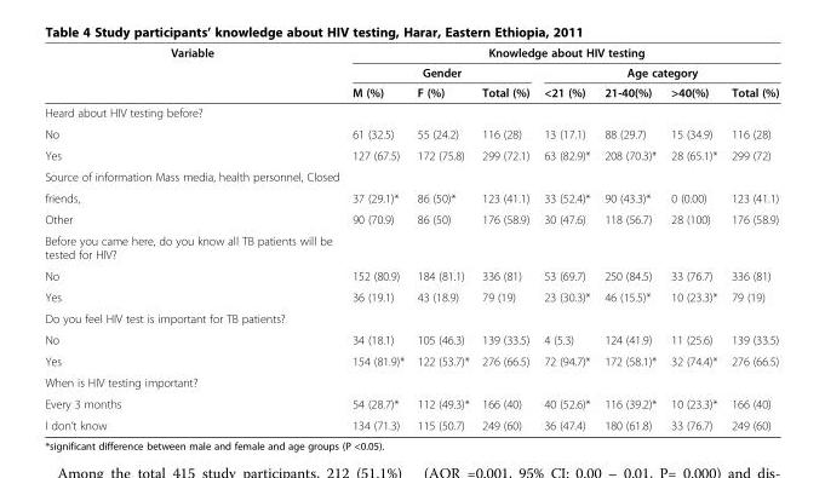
<table><thead><tr><td rowspan="3">Variable</td><td colspan="7">Knowledge about HIV testing</td></tr><tr><td colspan="3">Gender</td><td colspan="4">Age category</td></tr><tr><td>M (%)</td><td>F (%)</td><td>Total (%)</td><td>&lt;21 (%)</td><td>21-40(%)</td><td>&gt;40(%)</td><td>Total (%)</td></tr></thead><tbody><tr><td colspan="8">Heard about HIV testing before?</td></tr><tr><td>No</td><td>61 (32.5)</td><td>55 (24.2)</td><td>116 (28)</td><td>13 (17.1)</td><td>88 (29.7)</td><td>15 (34.9)</td><td>116 (28)</td></tr><tr><td>Yes</td><td>127 (67.5)</td><td>172 (75.8)</td><td>299 (72.1)</td><td>63 (82.9)*</td><td>208 (70.3)*</td><td>28 (65.1)*</td><td>299 (72)</td></tr><tr><td colspan="8">Source of information Mass media, health personnel, Closed</td></tr><tr><td>friends,</td><td>37 (29.1)*</td><td>86 (50)*</td><td>123 (41.1)</td><td>33 (52.4)*</td><td>90 (43.3)*</td><td>0 (0.00)</td><td>123 (41.1)</td></tr><tr><td>Other</td><td>90 (70.9)</td><td>86 (50)</td><td>176 (58.9)</td><td>30 (47.6)</td><td>118 (56.7)</td><td>28 (100)</td><td>176 (58.9)</td></tr><tr><td colspan="8">Before you came here, do you know all TB patients will be tested for HIV?</td></tr><tr><td>No</td><td>152 (80.9)</td><td>184 (81.1)</td><td>336 (81)</td><td>53 (69.7)</td><td>250 (84.5)</td><td>33 (76.7)</td><td>336 (81)</td></tr><tr><td>Yes</td><td>36 (19.1)</td><td>43 (18.9)</td><td>79 (19)</td><td>23 (30.3)*</td><td>46 (15.5)*</td><td>10 (23.3)*</td><td>79 (19)</td></tr><tr><td colspan="8">Do you feel HIV test is important for TB patients?</td></tr><tr><td>No</td><td>34 (18.1)</td><td>105 (46.3)</td><td>139 (33.5)</td><td>4 (5.3)</td><td>124 (41.9)</td><td>11 (25.6)</td><td>139 (33.5)</td></tr><tr><td>Yes</td><td>154 (81.9)*</td><td>122 (53.7)*</td><td>276 (66.5)</td><td>72 (94.7)*</td><td>172 (58.1)*</td><td>32 (74.4)*</td><td>276 (66.5)</td></tr><tr><td colspan="8">When is HIV testing important?</td></tr><tr><td>Every 3 months</td><td>54 (28.7)*</td><td>112 (49.3)*</td><td>166 (40)</td><td>40 (52.6)*</td><td>116 (39.2)*</td><td>10 (23.3)*</td><td>166 (40)</td></tr><tr><td>I don’t know</td><td>134 (71.3)</td><td>115 (50.7)</td><td>249 (60)</td><td>36 (47.4)</td><td>180 (61.8)</td><td>33 (76.7)</td><td>249 (60)</td></tr></tbody></table>